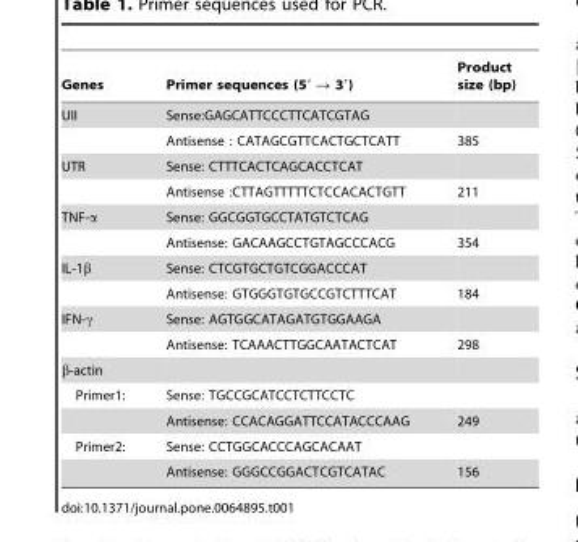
<table><thead><tr><td>Genes</td><td>Primer sequences (5′ → 3′)</td><td>Product size (bp)</td></tr></thead><tbody><tr><td rowspan="2">UII</td><td>Sense:GAGCATTCCCTTCATCGTAG</td><td></td></tr><tr><td>Antisense : CATAGCGTTCACTGCTCATT</td><td>385</td></tr><tr><td rowspan="2">UTR</td><td>Sense: CTTTCACTCAGCACCTCAT</td><td></td></tr><tr><td>Antisense :CTTAGTTTTTCTCCACACTGTT</td><td>211</td></tr><tr><td rowspan="2">TNF-α</td><td>Sense: GGCGGTGCCTATGTCTCAG</td><td></td></tr><tr><td>Antisense: GACAAGCCTGTAGCCCACG</td><td>354</td></tr><tr><td rowspan="2">IL-1β</td><td>Sense: CTCGTGCTGTCGGACCCAT</td><td></td></tr><tr><td>Antisense: GTGGGTGTGCCGTCTTTCAT</td><td>184</td></tr><tr><td rowspan="2">IFN-γ</td><td>Sense: AGTGGCATAGATGTGGAAGA</td><td></td></tr><tr><td>Antisense: TCAAACTTGGCAATACTCAT</td><td>298</td></tr><tr><td colspan="3">β-actin</td></tr><tr><td rowspan="2">Primer1:</td><td>Sense: TGCCGCATCCTCTTCCTC</td><td></td></tr><tr><td>Antisense: CCACAGGATTCCATACCCAAG</td><td>249</td></tr><tr><td rowspan="2">Primer2:</td><td>Sense: CCTGGCACCCAGCACAAT</td><td></td></tr><tr><td>Antisense: GGGCCGGACTCGTCATAC</td><td>156</td></tr></tbody></table>